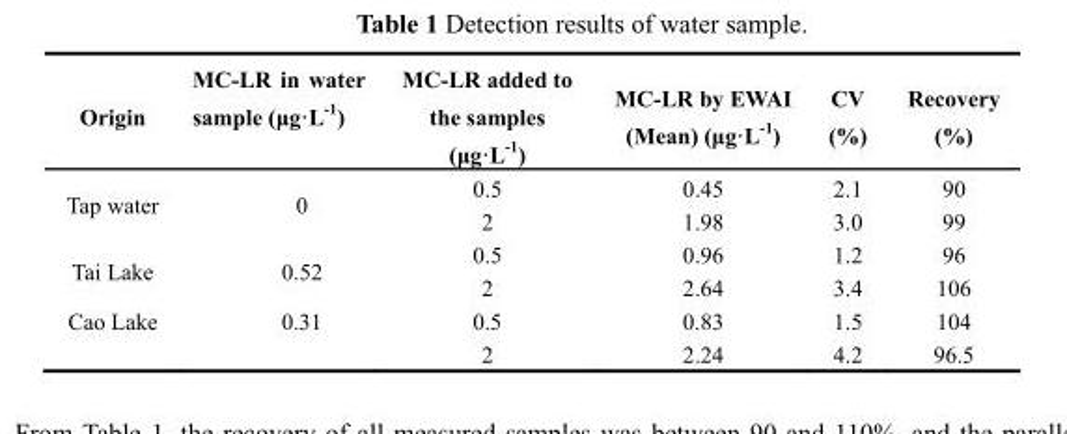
<table><thead><tr><td>Origin</td><td>MC-LR in water sample (μg·L<sup>-1</sup>)</td><td>MC-LR added to the samples (μg·L<sup>-1</sup>)</td><td>MC-LR by EWAI (Mean) (μg·L<sup>-1</sup>)</td><td>CV (%)</td><td>Recovery (%)</td></tr></thead><tbody><tr><td rowspan="2">Tap water</td><td rowspan="2">0</td><td>0.5</td><td>0.45</td><td>2.1</td><td>90</td></tr><tr><td>2</td><td>1.98</td><td>3.0</td><td>99</td></tr><tr><td rowspan="2">Tai Lake</td><td rowspan="2">0.52</td><td>0.5</td><td>0.96</td><td>1.2</td><td>96</td></tr><tr><td>2</td><td>2.64</td><td>3.4</td><td>106</td></tr><tr><td rowspan="2">Cao Lake</td><td rowspan="2">0.31</td><td>0.5</td><td>0.83</td><td>1.5</td><td>104</td></tr><tr><td>2</td><td>2.24</td><td>4.2</td><td>96.5</td></tr></tbody></table>